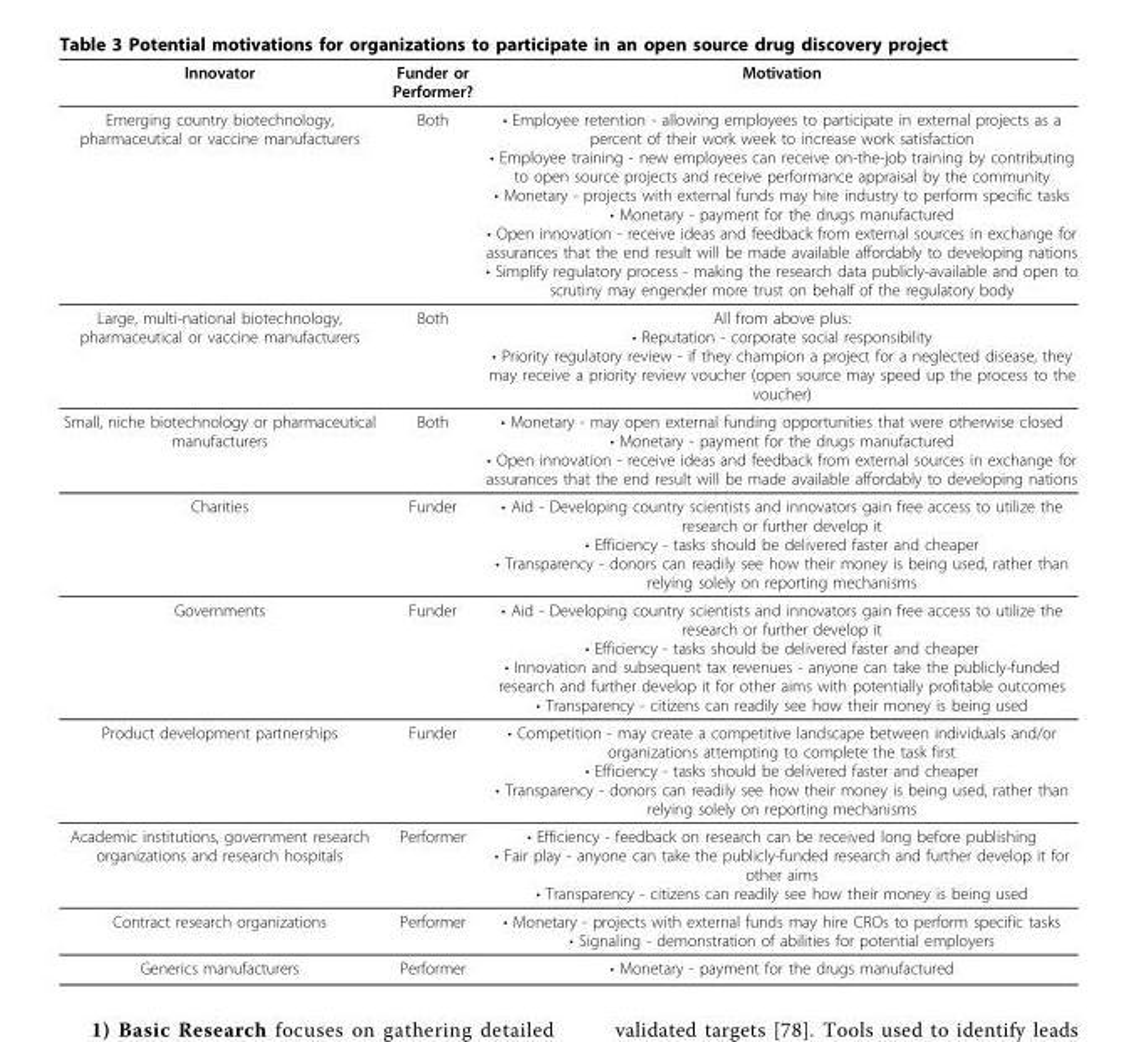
<table><thead><tr><td>Innovator</td><td>Funder or Performer?</td><td>Motivation</td></tr></thead><tbody><tr><td>Emerging country biotechnology, pharmaceutical or vaccine manufacturers</td><td>Both</td><td>• Employee retention - allowing employees to participate in external projects as a percent of their work week to increase work satisfaction • Employee training - new employees can receive on-the-job training by contributing to open source projects and receive performance appraisal by the community • Monetary - projects with external funds may hire industry to perform specific tasks • Monetary - payment for the drugs manufactured • Open innovation - receive ideas and feedback from external sources in exchange for assurances that the end result will be made available affordably to developing nations • Simplify regulatory process - making the research data publicly-available and open to scrutiny may engender more trust on behalf of the regulatory body</td></tr><tr><td>Large, multi-national biotechnology, pharmaceutical or vaccine manufacturers</td><td>Both</td><td>All from above plus: • Reputation - corporate social responsibility • Priority regulatory review - if they champion a project for a neglected disease, they may receive a priority review voucher (open source may speed up the process to the voucher)</td></tr><tr><td>Small, niche biotechnology or pharmaceutical manufacturers</td><td>Both</td><td>• Monetary - may open external funding opportunities that were otherwise closed • Monetary - payment for the drugs manufactured • Open innovation - receive ideas and feedback from external sources in exchange for assurances that the end result will be made available affordably to developing nations</td></tr><tr><td>Charities</td><td>Funder</td><td>• Aid - Developing country scientists and innovators gain free access to utilize the research or further develop it • Efficiency - tasks should be delivered faster and cheaper • Transparency - donors can readily see how their money is being used, rather than relying solely on reporting mechanisms</td></tr><tr><td>Governments</td><td>Funder</td><td>• Aid - Developing country scientists and innovators gain free access to utilize the research or further develop it • Efficiency - tasks should be delivered faster and cheaper • Innovation and subsequent tax revenues - anyone can take the publicly-funded research and further develop it for other aims with potentially profitable outcomes • Transparency - citizens can readily see how their money is being used</td></tr><tr><td>Product development partnerships</td><td>Funder</td><td>• Competition - may create a competitive landscape between individuals and/or organizations attempting to complete the task first • Efficiency - tasks should be delivered faster and cheaper • Transparency - donors can readily see how their money is being used, rather than relying solely on reporting mechanisms</td></tr><tr><td>Academic institutions, government research organizations and research hospitals</td><td>Performer</td><td>• Efficiency - feedback on research can be received long before publishing • Fair play - anyone can take the publicly-funded research and further develop it for other aims • Transparency - citizens can readily see how their money is being used</td></tr><tr><td>Contract research organizations</td><td>Performer</td><td>• Monetary - projects with external funds may hire CROs to perform specific tasks • Signaling - demonstration of abilities for potential employers</td></tr><tr><td>Generics manufacturers</td><td>Performer</td><td>• Monetary - payment for the drugs manufactured</td></tr></tbody></table>